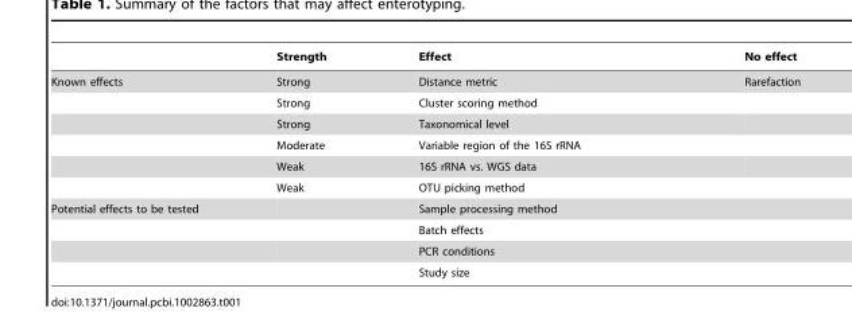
<table><thead><tr><td></td><td>Strength</td><td>Effect</td><td>No effect</td></tr></thead><tbody><tr><td rowspan="6">Known effects</td><td>Strong</td><td>Distance metric</td><td>Rarefaction</td></tr><tr><td>Strong</td><td>Cluster scoring method</td><td></td></tr><tr><td>Strong</td><td>Taxonomical level</td><td></td></tr><tr><td>Moderate</td><td>Variable region of the 16S rRNA</td><td></td></tr><tr><td>Weak</td><td>16S rRNA vs. WGS data</td><td></td></tr><tr><td>Weak</td><td colspan="2">OTU picking method</td></tr><tr><td rowspan="4">Potential effects to be tested</td><td></td><td colspan="2">Sample processing method</td></tr><tr><td></td><td colspan="2">Batch effects</td></tr><tr><td></td><td colspan="2">PCR conditions</td></tr><tr><td></td><td colspan="2">Study size</td></tr></tbody></table>